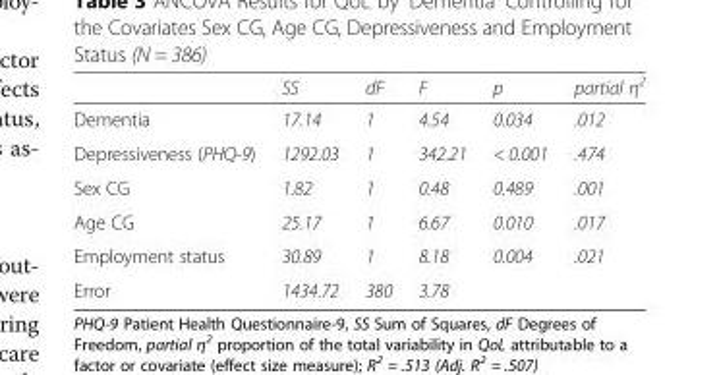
<table><thead><tr><td></td><td>SS</td><td>dF</td><td>F</td><td>p</td><td>partial η<sup>2</sup></td></tr></thead><tbody><tr><td>Dementia</td><td>17.14</td><td>1</td><td>4.54</td><td>0.034</td><td>.012</td></tr><tr><td>Depressiveness (PHQ-9)</td><td>1292.03</td><td>1</td><td>342.21</td><td>&lt; 0.001</td><td>.474</td></tr><tr><td>Sex CG</td><td>1.82</td><td>1</td><td>0.48</td><td>0.489</td><td>.001</td></tr><tr><td>Age CG</td><td>25.17</td><td>1</td><td>6.67</td><td>0.010</td><td>.017</td></tr><tr><td>Employment status</td><td>30.89</td><td>1</td><td>8.18</td><td>0.004</td><td>.021</td></tr><tr><td>Error</td><td>1434.72</td><td>380</td><td>3.78</td><td></td><td></td></tr></tbody></table>